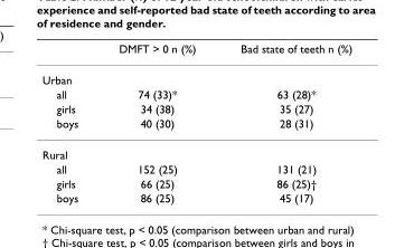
<table><thead><tr><td></td><td>DMFT &gt; 0 n (%)</td><td>Bad state of teeth n (%)</td></tr></thead><tbody><tr><td colspan="3">Urban</td></tr><tr><td>all</td><td>74 (33)*</td><td>63 (28)*</td></tr><tr><td>girls</td><td>34 (38)</td><td>35 (27)</td></tr><tr><td>boys</td><td>40 (30)</td><td>28 (31)</td></tr><tr><td colspan="3">Rural</td></tr><tr><td>all</td><td>152 (25)</td><td>131 (21)</td></tr><tr><td>girls</td><td>66 (25)</td><td>86 (25)†</td></tr><tr><td>boys</td><td>86 (25)</td><td>45 (17)</td></tr></tbody></table>